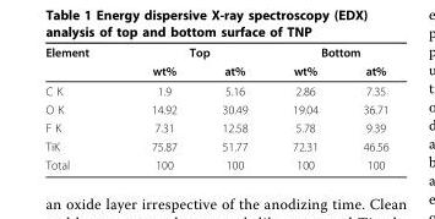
<table><thead><tr><td rowspan="2">Element</td><td colspan="2">Top</td><td colspan="2">Bottom</td></tr><tr><td>wt%</td><td>at%</td><td>wt%</td><td>at%</td></tr></thead><tbody><tr><td>C K</td><td>1.9</td><td>5.16</td><td>2.86</td><td>7.35</td></tr><tr><td>O K</td><td>14.92</td><td>30.49</td><td>19.04</td><td>36.71</td></tr><tr><td>F K</td><td>7.31</td><td>12.58</td><td>5.78</td><td>9.39</td></tr><tr><td>TiK</td><td>75.87</td><td>51.77</td><td>72.31</td><td>46.56</td></tr><tr><td>Total</td><td>100</td><td>100</td><td>100</td><td>100</td></tr></tbody></table>